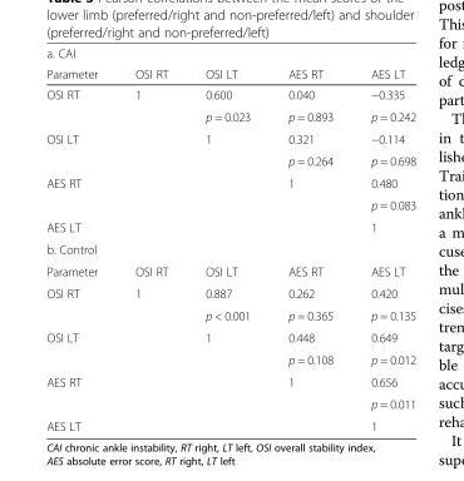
<table><thead><tr><td colspan="5">a. CAI</td></tr><tr><td>Parameter</td><td>OSI RT</td><td>OSI LT</td><td>AES RT</td><td>AES LT</td></tr></thead><tbody><tr><td rowspan="2">OSI RT</td><td rowspan="2">1</td><td>0.600</td><td>0.040</td><td>−0.335</td></tr><tr><td>p = 0.023</td><td>p = 0.893</td><td>p = 0.242</td></tr><tr><td rowspan="2">OSI LT</td><td rowspan="2"></td><td rowspan="2">1</td><td>0.321</td><td>−0.114</td></tr><tr><td>p = 0.264</td><td>p = 0.698</td></tr><tr><td rowspan="2">AES RT</td><td rowspan="2"></td><td rowspan="2"></td><td rowspan="2">1</td><td>0.480</td></tr><tr><td>p = 0.083</td></tr><tr><td>AES LT</td><td></td><td></td><td></td><td>1</td></tr><tr><td colspan="5">b. Control</td></tr><tr><td>Parameter</td><td>OSI RT</td><td>OSI LT</td><td>AES RT</td><td>AES LT</td></tr><tr><td rowspan="2">OSI RT</td><td rowspan="2">1</td><td>0.887</td><td>0.262</td><td>0.420</td></tr><tr><td>p &lt; 0.001</td><td>p = 0.365</td><td>p = 0.135</td></tr><tr><td rowspan="2">OSI LT</td><td rowspan="2"></td><td rowspan="2">1</td><td>0.448</td><td>0.649</td></tr><tr><td>p = 0.108</td><td>p = 0.012</td></tr><tr><td rowspan="2">AES RT</td><td rowspan="2"></td><td rowspan="2"></td><td rowspan="2">1</td><td>0.656</td></tr><tr><td>p = 0.011</td></tr><tr><td>AES LT</td><td></td><td></td><td></td><td>1</td></tr></tbody></table>